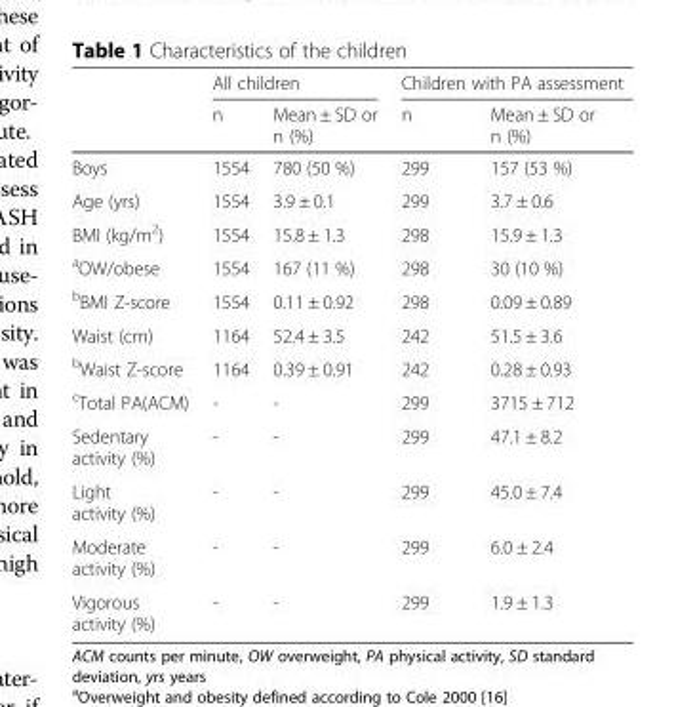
<table><thead><tr><td rowspan="2"></td><td colspan="2">All children</td><td colspan="2">Children with PA assessment</td></tr><tr><td>n</td><td>Mean ± SD or n (%)</td><td>n</td><td>Mean ± SD or n (%)</td></tr></thead><tbody><tr><td>Boys</td><td>1554</td><td>780 (50 %)</td><td>299</td><td>157 (53 %)</td></tr><tr><td>Age (yrs)</td><td>1554</td><td>3.9 ± 0.1</td><td>299</td><td>3.7 ± 0.6</td></tr><tr><td>BMI (kg/m<sup>2</sup>)</td><td>1554</td><td>15.8 ± 1.3</td><td>298</td><td>15.9 ± 1.3</td></tr><tr><td><sup>a</sup>OW/obese</td><td>1554</td><td>167 (11 %)</td><td>298</td><td>30 (10 %)</td></tr><tr><td><sup>b</sup>BMI Z-score</td><td>1554</td><td>0.11 ± 0.92</td><td>298</td><td>0.09 ± 0.89</td></tr><tr><td>Waist (cm)</td><td>1164</td><td>52.4 ± 3.5</td><td>242</td><td>51.5 ± 3.6</td></tr><tr><td><sup>b</sup>Waist Z-score</td><td>1164</td><td>0.39 ± 0.91</td><td>242</td><td>0.28 ± 0.93</td></tr><tr><td><sup>c</sup>Total PA(ACM)</td><td>-</td><td>-</td><td>299</td><td>3715 ± 712</td></tr><tr><td>Sedentary activity (%)</td><td>-</td><td>-</td><td>299</td><td>47.1 ± 8.2</td></tr><tr><td>Light activity (%)</td><td>-</td><td>-</td><td>299</td><td>45.0 ± 7.4</td></tr><tr><td>Moderate activity (%)</td><td>-</td><td>-</td><td>299</td><td>6.0 ± 2.4</td></tr><tr><td>Vigorous activity (%)</td><td>-</td><td>-</td><td>299</td><td>1.9 ± 1.3</td></tr></tbody></table>